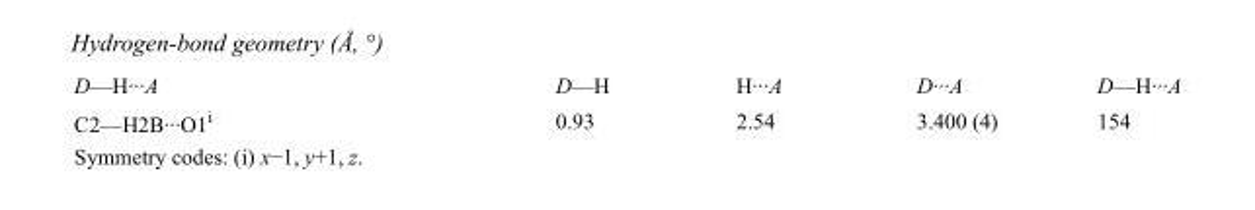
<table><tbody><tr><td>D—H···A</td><td>D—H</td><td>H···A</td><td>D···A</td><td>D—H···A</td></tr><tr><td>C2—H2B···O1<sup>i</sup></td><td>0.93</td><td>2.54</td><td>3.400 (4)</td><td>154</td></tr></tbody></table>